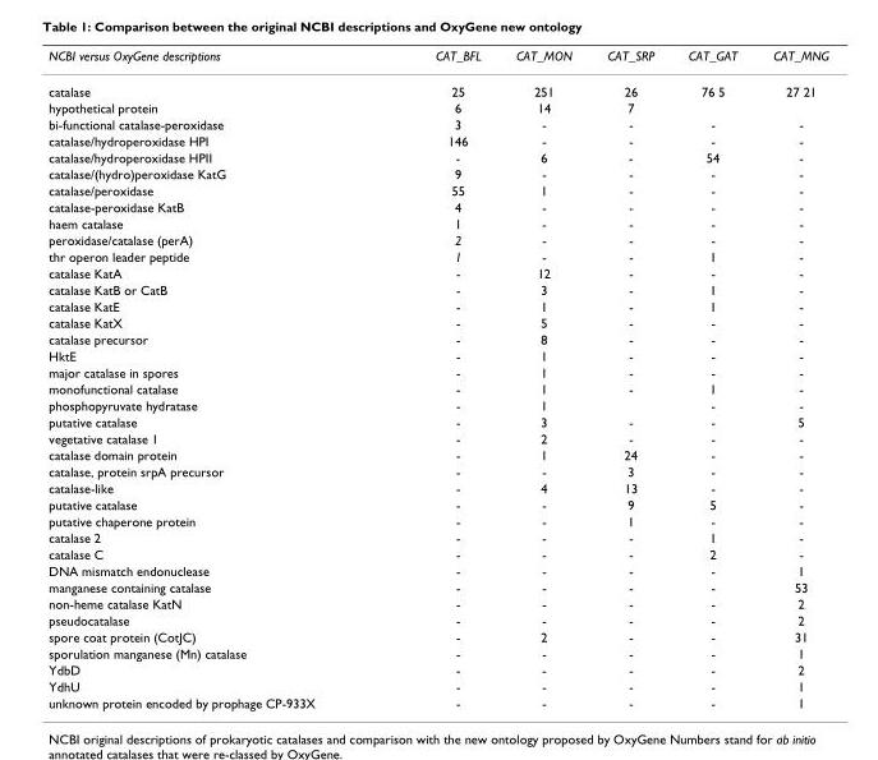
<table><thead><tr><td>NCBI versus OxyGene descriptions</td><td>CAT_BFL</td><td>CAT_MON</td><td>CAT_SRP</td><td>CAT_GAT</td><td>CAT_MNG</td></tr></thead><tbody><tr><td>catalase</td><td>25</td><td>251</td><td>26</td><td>76 5</td><td>27 21</td></tr><tr><td>hypothetical protein</td><td>6</td><td>14</td><td>7</td><td></td><td></td></tr><tr><td>bi-functional catalase-peroxidase</td><td>3</td><td>-</td><td>-</td><td>-</td><td>-</td></tr><tr><td>catalase/hydroperoxidase HPI</td><td>146</td><td>-</td><td>-</td><td>-</td><td>-</td></tr><tr><td>catalase/hydroperoxidase HPII</td><td>-</td><td>6</td><td>-</td><td>54</td><td>-</td></tr><tr><td>catalase/(hydro)peroxidase KatG</td><td>9</td><td>-</td><td>-</td><td>-</td><td>-</td></tr><tr><td>catalase/peroxidase</td><td>55</td><td>1</td><td>-</td><td>-</td><td>-</td></tr><tr><td>catalase-peroxidase KatB</td><td>4</td><td>-</td><td>-</td><td>-</td><td>-</td></tr><tr><td>haem catalase</td><td>1</td><td>-</td><td>-</td><td>-</td><td>-</td></tr><tr><td>peroxidase/catalase (perA)</td><td>2</td><td>-</td><td>-</td><td>-</td><td>-</td></tr><tr><td>thr operon leader peptide</td><td>1</td><td>-</td><td>-</td><td>1</td><td>-</td></tr><tr><td>catalase KatA</td><td>-</td><td>12</td><td>-</td><td>-</td><td>-</td></tr><tr><td>catalase KatB or CatB</td><td>-</td><td>3</td><td>-</td><td>1</td><td>-</td></tr><tr><td>catalase KatE</td><td>-</td><td>1</td><td>-</td><td>1</td><td>-</td></tr><tr><td>catalase KatX</td><td>-</td><td>5</td><td>-</td><td>-</td><td>-</td></tr><tr><td>catalase precursor</td><td>-</td><td>8</td><td>-</td><td>-</td><td>-</td></tr><tr><td>HktE</td><td>-</td><td>1</td><td>-</td><td>-</td><td>-</td></tr><tr><td>major catalase in spores</td><td>-</td><td>1</td><td>-</td><td>-</td><td>-</td></tr><tr><td>monofunctional catalase</td><td>-</td><td>1</td><td>-</td><td>1</td><td>-</td></tr><tr><td>phosphopyruvate hydratase</td><td>-</td><td>1</td><td></td><td>-</td><td>-</td></tr><tr><td>putative catalase</td><td>-</td><td>3</td><td>-</td><td>-</td><td>5</td></tr><tr><td>vegetative catalase 1</td><td>-</td><td>2</td><td>-</td><td>-</td><td>-</td></tr><tr><td>catalase domain protein</td><td>-</td><td>1</td><td>24</td><td>-</td><td>-</td></tr><tr><td>catalase, protein srpA precursor</td><td>-</td><td>-</td><td>3</td><td>-</td><td>-</td></tr><tr><td>catalase-like</td><td>-</td><td>4</td><td>13</td><td>-</td><td>-</td></tr><tr><td>putative catalase</td><td>-</td><td>-</td><td>9</td><td>5</td><td>-</td></tr><tr><td>putative chaperone protein</td><td>-</td><td>-</td><td>1</td><td>-</td><td>-</td></tr><tr><td>catalase 2</td><td>-</td><td>-</td><td>-</td><td>1</td><td>-</td></tr><tr><td>catalase C</td><td>-</td><td>-</td><td>-</td><td>2</td><td>-</td></tr><tr><td>DNA mismatch endonuclease</td><td>-</td><td>-</td><td>-</td><td>-</td><td>1</td></tr><tr><td>manganese containing catalase</td><td>-</td><td>-</td><td>-</td><td>-</td><td>53</td></tr><tr><td>non-heme catalase KatN</td><td>-</td><td>-</td><td>-</td><td>-</td><td>2</td></tr><tr><td>pseudocatalase</td><td>-</td><td>-</td><td>-</td><td>-</td><td>2</td></tr><tr><td>spore coat protein (CotJC)</td><td>-</td><td>2</td><td>-</td><td>-</td><td>31</td></tr><tr><td>sporulation manganese (Mn) catalase</td><td>-</td><td>-</td><td>-</td><td>-</td><td>1</td></tr><tr><td>YdbD</td><td>-</td><td>-</td><td>-</td><td>-</td><td>2</td></tr><tr><td>YdhU</td><td>-</td><td>-</td><td>-</td><td>-</td><td>1</td></tr><tr><td>unknown protein encoded by prophage CP-933X</td><td>-</td><td>-</td><td>-</td><td>-</td><td>1</td></tr></tbody></table>